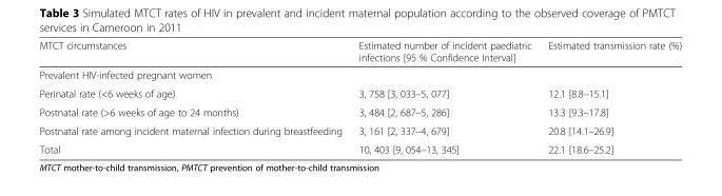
<table><thead><tr><td>MTCT circumstances</td><td>Estimated number of incident paediatric infections [95 % Confidence Interval]</td><td>Estimated transmission rate (%)</td></tr></thead><tbody><tr><td colspan="3">Prevalent HIV-infected pregnant women</td></tr><tr><td>Perinatal rate (&lt;6 weeks of age)</td><td>3, 758 [3, 033–5, 077]</td><td>12.1 [8.8–15.1]</td></tr><tr><td>Postnatal rate (&gt;6 weeks of age to 24 months)</td><td>3, 484 [2, 687–5, 286]</td><td>13.3 [9.3–17.8]</td></tr><tr><td>Postnatal rate among incident maternal infection during breastfeeding</td><td>3, 161 [2, 337–4, 679]</td><td>20.8 [14.1–26.9]</td></tr><tr><td>Total</td><td>10, 403 [9, 054–13, 345]</td><td>22.1 [18.6–25.2]</td></tr></tbody></table>